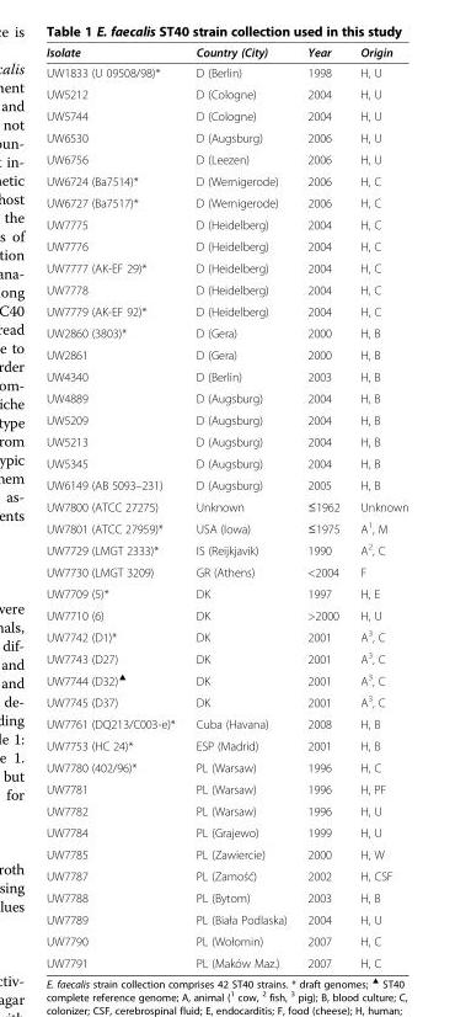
<table><thead><tr><td>Isolate</td><td>Country (City)</td><td>Year</td><td>Origin</td></tr></thead><tbody><tr><td>UW1833 (U 09508/98)*</td><td>D (Berlin)</td><td>1998</td><td>H, U</td></tr><tr><td>UW5212</td><td>D (Cologne)</td><td>2004</td><td>H, U</td></tr><tr><td>UW5744</td><td>D (Cologne)</td><td>2004</td><td>H, U</td></tr><tr><td>UW6530</td><td>D (Augsburg)</td><td>2006</td><td>H, U</td></tr><tr><td>UW6756</td><td>D (Leezen)</td><td>2006</td><td>H, U</td></tr><tr><td>UW6724 (Ba7514)*</td><td>D (Wernigerode)</td><td>2006</td><td>H, C</td></tr><tr><td>UW6727 (Ba7517)*</td><td>D (Wernigerode)</td><td>2006</td><td>H, C</td></tr><tr><td>UW7775</td><td>D (Heidelberg)</td><td>2004</td><td>H, C</td></tr><tr><td>UW7776</td><td>D (Heidelberg)</td><td>2004</td><td>H, C</td></tr><tr><td>UW7777 (AK-EF 29)*</td><td>D (Heidelberg)</td><td>2004</td><td>H, C</td></tr><tr><td>UW7778</td><td>D (Heidelberg)</td><td>2004</td><td>H, C</td></tr><tr><td>UW7779 (AK-EF 92)*</td><td>D (Heidelberg)</td><td>2004</td><td>H, C</td></tr><tr><td>UW2860 (3803)*</td><td>D (Gera)</td><td>2000</td><td>H, B</td></tr><tr><td>UW2861</td><td>D (Gera)</td><td>2000</td><td>H, B</td></tr><tr><td>UW4340</td><td>D (Berlin)</td><td>2003</td><td>H, B</td></tr><tr><td>UW4889</td><td>D (Augsburg)</td><td>2004</td><td>H, B</td></tr><tr><td>UW5209</td><td>D (Augsburg)</td><td>2004</td><td>H, B</td></tr><tr><td>UW5213</td><td>D (Augsburg)</td><td>2004</td><td>H, B</td></tr><tr><td>UW5345</td><td>D (Augsburg)</td><td>2004</td><td>H, B</td></tr><tr><td>UW6149 (AB 5093–231)</td><td>D (Augsburg)</td><td>2005</td><td>H, B</td></tr><tr><td>UW7800 (ATCC 27275)</td><td>Unknown</td><td>≤1962</td><td>Unknown</td></tr><tr><td>UW7801 (ATCC 27959)*</td><td>USA (Iowa)</td><td>≤1975</td><td>A<sup>1</sup>, M</td></tr><tr><td>UW7729 (LMGT 2333)*</td><td>IS (Reijkjavik)</td><td>1990</td><td>A<sup>2</sup>, C</td></tr><tr><td>UW7730 (LMGT 3209)</td><td>GR (Athens)</td><td>&lt;2004</td><td>F</td></tr><tr><td>UW7709 (5)*</td><td>DK</td><td>1997</td><td>H, E</td></tr><tr><td>UW7710 (6)</td><td>DK</td><td>&gt;2000</td><td>H, U</td></tr><tr><td>UW7742 (D1)*</td><td>DK</td><td>2001</td><td>A<sup>3</sup>, C</td></tr><tr><td>UW7743 (D27)</td><td>DK</td><td>2001</td><td>A<sup>3</sup>, C</td></tr><tr><td>UW7744 (D32)<sup>▲</sup></td><td>DK</td><td>2001</td><td>A<sup>3</sup>, C</td></tr><tr><td>UW7745 (D37)</td><td>DK</td><td>2001</td><td>A<sup>3</sup>, C</td></tr><tr><td>UW7761 (DQ213/C003-e)*</td><td>Cuba (Havana)</td><td>2008</td><td>H, B</td></tr><tr><td>UW7753 (HC 24)*</td><td>ESP (Madrid)</td><td>2001</td><td>H, B</td></tr><tr><td>UW7780 (402/96)*</td><td>PL (Warsaw)</td><td>1996</td><td>H, C</td></tr><tr><td>UW7781</td><td>PL (Warsaw)</td><td>1996</td><td>H, PF</td></tr><tr><td>UW7782</td><td>PL (Warsaw)</td><td>1996</td><td>H, U</td></tr><tr><td>UW7784</td><td>PL (Grajewo)</td><td>1999</td><td>H, U</td></tr><tr><td>UW7785</td><td>PL (Zawiercie)</td><td>2000</td><td>H, W</td></tr><tr><td>UW7787</td><td>PL (Zamość)</td><td>2002</td><td>H, CSF</td></tr><tr><td>UW7788</td><td>PL (Bytom)</td><td>2003</td><td>H, B</td></tr><tr><td>UW7789</td><td>PL (Biała Podlaska)</td><td>2004</td><td>H, U</td></tr><tr><td>UW7790</td><td>PL (Wołomin)</td><td>2007</td><td>H, C</td></tr><tr><td>UW7791</td><td>PL (Maków Maz.)</td><td>2007</td><td>H, C</td></tr></tbody></table>